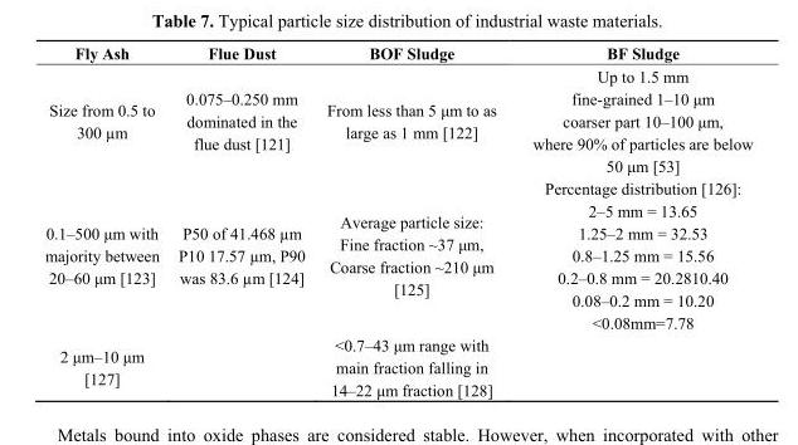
<table><thead><tr><td>Fly Ash</td><td>Flue Dust</td><td>BOF Sludge</td><td>BF Sludge</td></tr></thead><tbody><tr><td>Size from 0.5 to 300 µm</td><td>0.075–0.250 mm dominated in the flue dust [121]</td><td>From less than 5 μm to as large as 1 mm [122]</td><td>Up to 1.5 mm fine-grained 1–10 μm coarser part 10–100 μm, where 90% of particles are below 50 μm [53]</td></tr><tr><td>0.1–500 μm with majority between 20–60 μm [123]</td><td>P50 of 41.468 µm P10 17.57 µm, P90 was 83.6 µm [124]</td><td>Average particle size: Fine fraction ~37 μm, Coarse fraction ~210 μm [125]</td><td>Percentage distribution [126]: 2–5 mm = 13.65 1.25–2 mm = 32.53 0.8–1.25 mm = 15.56 0.2–0.8 mm = 20.2810.40 0.08–0.2 mm = 10.20 &lt;0.08mm=7.78</td></tr><tr><td>2 μm–10 μm [127]</td><td></td><td>&lt;0.7–43 μm range with main fraction falling in 14–22 μm fraction [128]</td><td></td></tr></tbody></table>